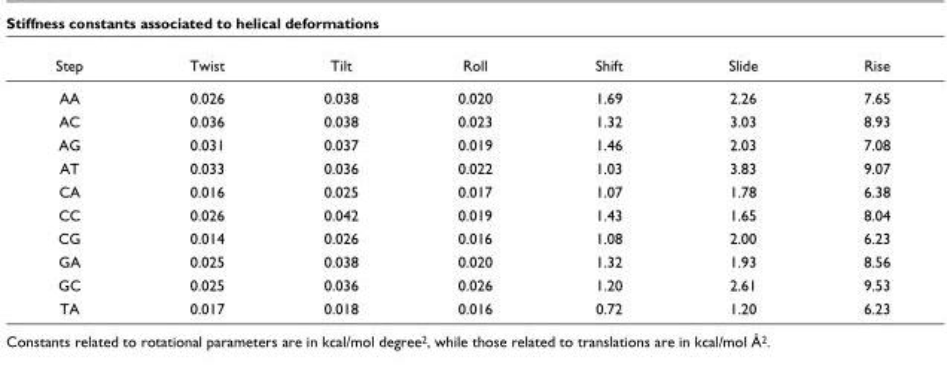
<table><thead><tr><td>Step</td><td>Twist</td><td>Tilt</td><td>Roll</td><td>Shift</td><td>Slide</td><td>Rise</td></tr></thead><tbody><tr><td>AA</td><td>0.026</td><td>0.038</td><td>0.020</td><td>1.69</td><td>2.26</td><td>7.65</td></tr><tr><td>AC</td><td>0.036</td><td>0.038</td><td>0.023</td><td>1.32</td><td>3.03</td><td>8.93</td></tr><tr><td>AG</td><td>0.031</td><td>0.037</td><td>0.019</td><td>1.46</td><td>2.03</td><td>7.08</td></tr><tr><td>AT</td><td>0.033</td><td>0.036</td><td>0.022</td><td>1.03</td><td>3.83</td><td>9.07</td></tr><tr><td>CA</td><td>0.016</td><td>0.025</td><td>0.017</td><td>1.07</td><td>1.78</td><td>6.38</td></tr><tr><td>CC</td><td>0.026</td><td>0.042</td><td>0.019</td><td>1.43</td><td>1.65</td><td>8.04</td></tr><tr><td>CG</td><td>0.014</td><td>0.026</td><td>0.016</td><td>1.08</td><td>2.00</td><td>6.23</td></tr><tr><td>GA</td><td>0.025</td><td>0.038</td><td>0.020</td><td>1.32</td><td>1.93</td><td>8.56</td></tr><tr><td>GC</td><td>0.025</td><td>0.036</td><td>0.026</td><td>1.20</td><td>2.61</td><td>9.53</td></tr><tr><td>TA</td><td>0.017</td><td>0.018</td><td>0.016</td><td>0.72</td><td>1.20</td><td>6.23</td></tr></tbody></table>